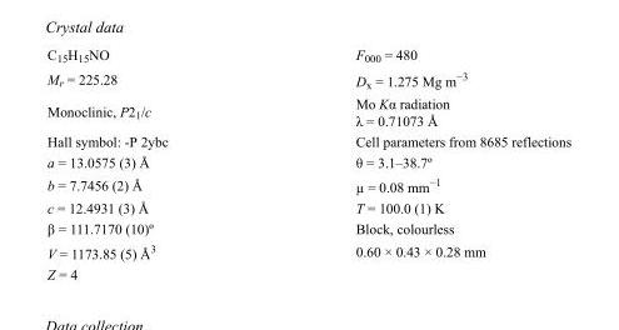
<table><tbody><tr><td>C<sub>15</sub>H<sub>15</sub>NO</td><td>F<sub>000</sub> = 480</td></tr><tr><td>M<sub>r</sub> = 225.28</td><td>D<sub>x</sub> = 1.275 Mg m<sup>−3</sup></td></tr><tr><td>Monoclinic, P2<sub>1</sub>/c</td><td>Mo Kα radiation λ = 0.71073 Å</td></tr><tr><td>Hall symbol: -P 2ybc</td><td>Cell parameters from 8685 reflections</td></tr><tr><td>a = 13.0575 (3) Å</td><td>θ = 3.1–38.7º</td></tr><tr><td>b = 7.7456 (2) Å</td><td>µ = 0.08 mm<sup>−1</sup></td></tr><tr><td>c = 12.4931 (3) Å</td><td>T = 100.0 (1) K</td></tr><tr><td>β = 111.7170 (10)º</td><td>Block, colourless</td></tr><tr><td>V = 1173.85 (5) Å<sup>3</sup></td><td>0.60 × 0.43 × 0.28 mm</td></tr><tr><td>Z = 4</td><td></td></tr></tbody></table>